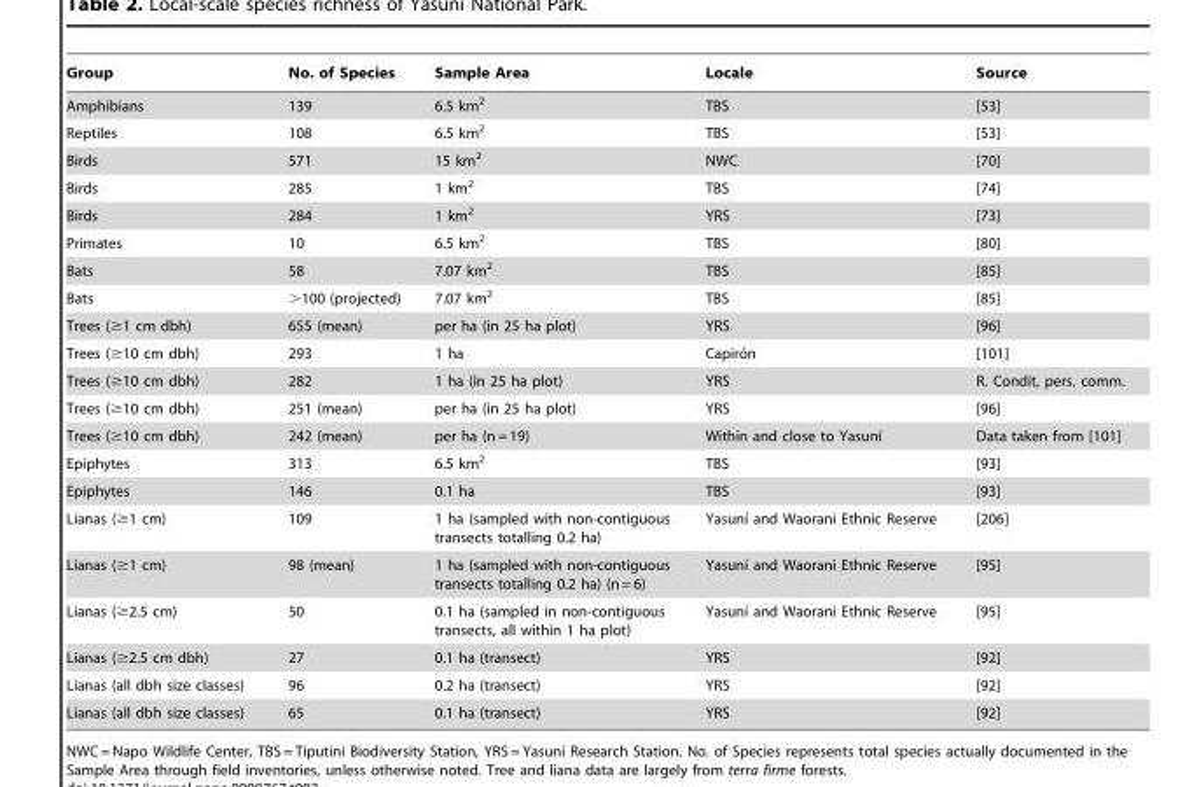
<table><thead><tr><td>Group</td><td>No. of Species</td><td>Sample Area</td><td>Locale</td><td>Source</td></tr></thead><tbody><tr><td>Amphibians</td><td>139</td><td>6.5 km<sup>2</sup></td><td>TBS</td><td>[53]</td></tr><tr><td>Reptiles</td><td>108</td><td>6.5 km<sup>2</sup></td><td>TBS</td><td>[53]</td></tr><tr><td>Birds</td><td>571</td><td>15 km<sup>2</sup></td><td>NWC</td><td>[70]</td></tr><tr><td>Birds</td><td>285</td><td>1 km<sup>2</sup></td><td>TBS</td><td>[74]</td></tr><tr><td>Birds</td><td>284</td><td>1 km<sup>2</sup></td><td>YRS</td><td>[73]</td></tr><tr><td>Primates</td><td>10</td><td>6.5 km<sup>2</sup></td><td>TBS</td><td>[80]</td></tr><tr><td>Bats</td><td>58</td><td>7.07 km<sup>2</sup></td><td>TBS</td><td>[85]</td></tr><tr><td>Bats</td><td>&gt;100 (projected)</td><td>7.07 km<sup>2</sup></td><td>TBS</td><td>[85]</td></tr><tr><td>Trees (≥1 cm dbh)</td><td>655 (mean)</td><td>per ha (in 25 ha plot)</td><td>YRS</td><td>[96]</td></tr><tr><td>Trees (≥10 cm dbh)</td><td>293</td><td>1 ha</td><td>Capiro´n</td><td>[101]</td></tr><tr><td>Trees (≥10 cm dbh)</td><td>282</td><td>1 ha (in 25 ha plot)</td><td>YRS</td><td>R. Condit, pers. comm.</td></tr><tr><td>Trees (≥10 cm dbh)</td><td>251 (mean)</td><td>per ha (in 25 ha plot)</td><td>YRS</td><td>[96]</td></tr><tr><td>Trees (≥10 cm dbh)</td><td>242 (mean)</td><td>per ha (n = 19)</td><td>Within and close to Yasunı´</td><td>Data taken from [101]</td></tr><tr><td>Epiphytes</td><td>313</td><td>6.5 km<sup>2</sup></td><td>TBS</td><td>[93]</td></tr><tr><td>Epiphytes</td><td>146</td><td>0.1 ha</td><td>TBS</td><td>[93]</td></tr><tr><td>Lianas (≥1 cm)</td><td>109</td><td>1 ha (sampled with non-contiguous transects totalling 0.2 ha)</td><td>Yasunı´ and Waorani Ethnic Reserve</td><td>[206]</td></tr><tr><td>Lianas (≥1 cm)</td><td>98 (mean)</td><td>1 ha (sampled with non-contiguous transects totalling 0.2 ha) (n = 6)</td><td>Yasunı´ and Waorani Ethnic Reserve</td><td>[95]</td></tr><tr><td>Lianas (≥2.5 cm)</td><td>50</td><td>0.1 ha (sampled in non-contiguous transects, all within 1 ha plot)</td><td>Yasunı´ and Waorani Ethnic Reserve</td><td>[95]</td></tr><tr><td>Lianas (≥2.5 cm dbh)</td><td>27</td><td>0.1 ha (transect)</td><td>YRS</td><td>[92]</td></tr><tr><td>Lianas (all dbh size classes)</td><td>96</td><td>0.2 ha (transect)</td><td>YRS</td><td>[92]</td></tr><tr><td>Lianas (all dbh size classes)</td><td>65</td><td>0.1 ha (transect)</td><td>YRS</td><td>[92]</td></tr></tbody></table>